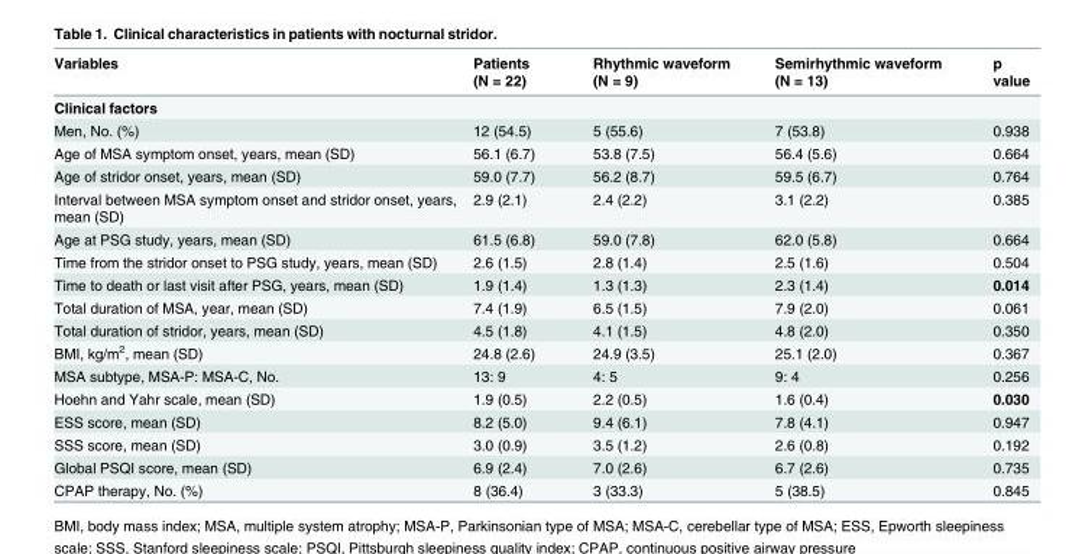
<table><thead><tr><td>Variables</td><td>Patients (N = 22)</td><td>Rhythmic waveform (N = 9)</td><td>Semirhythmic waveform (N = 13)</td><td>p value</td></tr></thead><tbody><tr><td colspan="5">Clinical factors</td></tr><tr><td>Men, No. (%)</td><td>12 (54.5)</td><td>5 (55.6)</td><td>7 (53.8)</td><td>0.938</td></tr><tr><td>Age of MSA symptom onset, years, mean (SD)</td><td>56.1 (6.7)</td><td>53.8 (7.5)</td><td>56.4 (5.6)</td><td>0.664</td></tr><tr><td>Age of stridor onset, years, mean (SD)</td><td>59.0 (7.7)</td><td>56.2 (8.7)</td><td>59.5 (6.7)</td><td>0.764</td></tr><tr><td>Interval between MSA symptom onset and stridor onset, years, mean (SD)</td><td>2.9 (2.1)</td><td>2.4 (2.2)</td><td>3.1 (2.2)</td><td>0.385</td></tr><tr><td>Age at PSG study, years, mean (SD)</td><td>61.5 (6.8)</td><td>59.0 (7.8)</td><td>62.0 (5.8)</td><td>0.664</td></tr><tr><td>Time from the stridor onset to PSG study, years, mean (SD)</td><td>2.6 (1.5)</td><td>2.8 (1.4)</td><td>2.5 (1.6)</td><td>0.504</td></tr><tr><td>Time to death or last visit after PSG, years, mean (SD)</td><td>1.9 (1.4)</td><td>1.3 (1.3)</td><td>2.3 (1.4)</td><td>0.014</td></tr><tr><td>Total duration of MSA, year, mean (SD)</td><td>7.4 (1.9)</td><td>6.5 (1.5)</td><td>7.9 (2.0)</td><td>0.061</td></tr><tr><td>Total duration of stridor, years, mean (SD)</td><td>4.5 (1.8)</td><td>4.1 (1.5)</td><td>4.8 (2.0)</td><td>0.350</td></tr><tr><td>BMI, kg/m<sup>2</sup>, mean (SD)</td><td>24.8 (2.6)</td><td>24.9 (3.5)</td><td>25.1 (2.0)</td><td>0.367</td></tr><tr><td>MSA subtype, MSA-P: MSA-C, No.</td><td>13: 9</td><td>4: 5</td><td>9: 4</td><td>0.256</td></tr><tr><td>Hoehn and Yahr scale, mean (SD)</td><td>1.9 (0.5)</td><td>2.2 (0.5)</td><td>1.6 (0.4)</td><td>0.030</td></tr><tr><td>ESS score, mean (SD)</td><td>8.2 (5.0)</td><td>9.4 (6.1)</td><td>7.8 (4.1)</td><td>0.947</td></tr><tr><td>SSS score, mean (SD)</td><td>3.0 (0.9)</td><td>3.5 (1.2)</td><td>2.6 (0.8)</td><td>0.192</td></tr><tr><td>Global PSQI score, mean (SD)</td><td>6.9 (2.4)</td><td>7.0 (2.6)</td><td>6.7 (2.6)</td><td>0.735</td></tr><tr><td>CPAP therapy, No. (%)</td><td>8 (36.4)</td><td>3 (33.3)</td><td>5 (38.5)</td><td>0.845</td></tr></tbody></table>